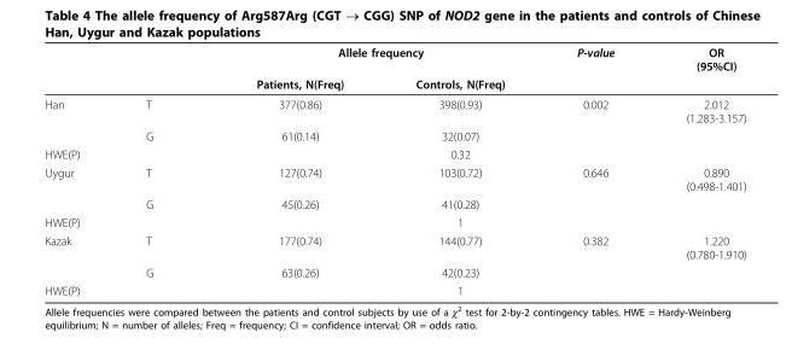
<table><thead><tr><td rowspan="2"></td><td rowspan="2"></td><td colspan="2">Allele frequency</td><td rowspan="2">P-value</td><td rowspan="2">OR (95%CI)</td></tr><tr><td>Patients, N(Freq)</td><td>Controls, N(Freq)</td></tr></thead><tbody><tr><td rowspan="2">Han</td><td>T</td><td>377(0.86)</td><td>398(0.93)</td><td>0.002</td><td>2.012 (1.283-3.157)</td></tr><tr><td>G</td><td>61(0.14)</td><td>32(0.07)</td><td></td><td></td></tr><tr><td colspan="2">HWE(P)</td><td></td><td>0.32</td><td></td><td></td></tr><tr><td rowspan="2">Uygur</td><td>T</td><td>127(0.74)</td><td>103(0.72)</td><td>0.646</td><td>0.890 (0.498-1.401)</td></tr><tr><td>G</td><td>45(0.26)</td><td>41(0.28)</td><td></td><td></td></tr><tr><td colspan="2">HWE(P)</td><td></td><td>1</td><td></td><td></td></tr><tr><td rowspan="2">Kazak</td><td>T</td><td>177(0.74)</td><td>144(0.77)</td><td>0.382</td><td>1.220 (0.780-1.910)</td></tr><tr><td>G</td><td>63(0.26)</td><td>42(0.23)</td><td></td><td></td></tr><tr><td colspan="2">HWE(P)</td><td></td><td>1</td><td></td><td></td></tr></tbody></table>